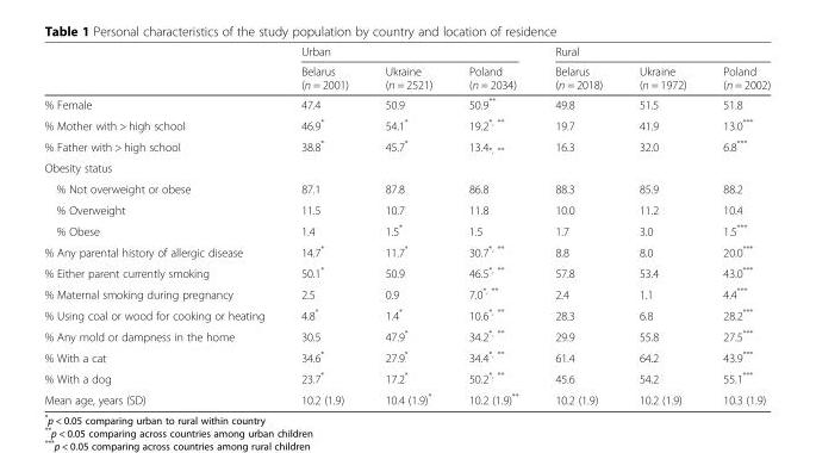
<table><thead><tr><td rowspan="2"></td><td colspan="3">Urban</td><td colspan="3">Rural</td></tr><tr><td>Belarus (n = 2001)</td><td>Ukraine (n = 2521)</td><td>Poland (n = 2034)</td><td>Belarus (n = 2018)</td><td>Ukraine (n = 1972)</td><td>Poland (n = 2002)</td></tr></thead><tbody><tr><td>% Female</td><td>47.4</td><td>50.9</td><td>50.9**</td><td>49.8</td><td>51.5</td><td>51.8</td></tr><tr><td>% Mother with &gt; high school</td><td>46.9*</td><td>54.1*</td><td>19.2<sup>*, **</sup></td><td>19.7</td><td>41.9</td><td>13.0***</td></tr><tr><td>% Father with &gt; high school</td><td>38.8*</td><td>45.7*</td><td>13.4<sub>*, **</sub></td><td>16.3</td><td>32.0</td><td>6.8***</td></tr><tr><td colspan="7">Obesity status</td></tr><tr><td>% Not overweight or obese</td><td>87.1</td><td>87.8</td><td>86.8</td><td>88.3</td><td>85.9</td><td>88.2</td></tr><tr><td>% Overweight</td><td>11.5</td><td>10.7</td><td>11.8</td><td>10.0</td><td>11.2</td><td>10.4</td></tr><tr><td>% Obese</td><td>1.4</td><td>1.5*</td><td>1.5</td><td>1.7</td><td>3.0</td><td>1.5***</td></tr><tr><td>% Any parental history of allergic disease</td><td>14.7*</td><td>11.7*</td><td>30.7<sup>*, **</sup></td><td>8.8</td><td>8.0</td><td>20.0***</td></tr><tr><td>% Either parent currently smoking</td><td>50.1*</td><td>50.9</td><td>46.5<sup>*, **</sup></td><td>57.8</td><td>53.4</td><td>43.0***</td></tr><tr><td>% Maternal smoking during pregnancy</td><td>2.5</td><td>0.9</td><td>7.0<sup>*, **</sup></td><td>2.4</td><td>1.1</td><td>4.4***</td></tr><tr><td>% Using coal or wood for cooking or heating</td><td>4.8*</td><td>1.4*</td><td>10.6<sup>*, **</sup></td><td>28.3</td><td>6.8</td><td>28.2***</td></tr><tr><td>% Any mold or dampness in the home</td><td>30.5</td><td>47.9*</td><td>34.2<sup>*, **</sup></td><td>29.9</td><td>55.8</td><td>27.5***</td></tr><tr><td>% With a cat</td><td>34.6*</td><td>27.9*</td><td>34.4<sup>*, **</sup></td><td>61.4</td><td>64.2</td><td>43.9***</td></tr><tr><td>% With a dog</td><td>23.7*</td><td>17.2*</td><td>50.2<sup>*, **</sup></td><td>45.6</td><td>54.2</td><td>55.1***</td></tr><tr><td>Mean age, years (SD)</td><td>10.2 (1.9)</td><td>10.4 (1.9)*</td><td>10.2 (1.9)**</td><td>10.2 (1.9)</td><td>10.2 (1.9)</td><td>10.3 (1.9)</td></tr></tbody></table>